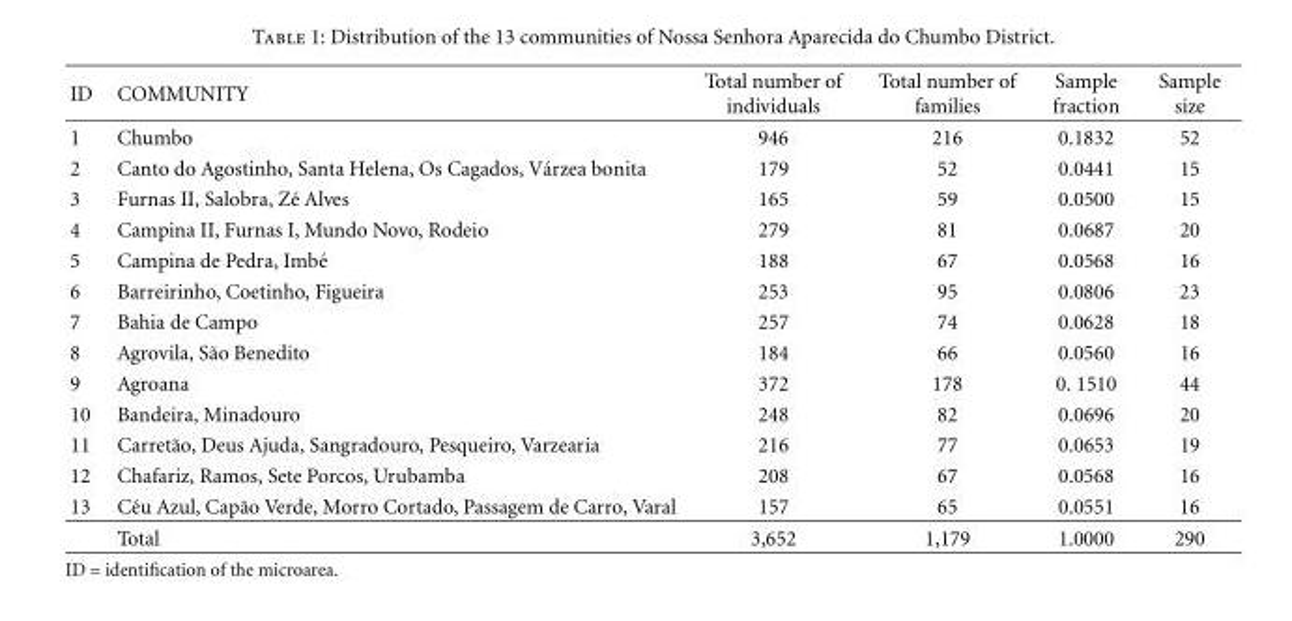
<table><thead><tr><td>ID</td><td>COMMUNITY</td><td>Total number of individuals</td><td>Total number of families</td><td>Sample fraction</td><td>Sample size</td></tr></thead><tbody><tr><td>1</td><td>Chumbo</td><td>946</td><td>216</td><td>0.1832</td><td>52</td></tr><tr><td>2</td><td>Canto do Agostinho, Santa Helena, Os Cagados, V´arzea bonita</td><td>179</td><td>52</td><td>0.0441</td><td>15</td></tr><tr><td>3</td><td>Furnas II, Salobra, Z´e Alves</td><td>165</td><td>59</td><td>0.0500</td><td>15</td></tr><tr><td>4</td><td>Campina II, Furnas I, Mundo Novo, Rodeio</td><td>279</td><td>81</td><td>0.0687</td><td>20</td></tr><tr><td>5</td><td>Campina de Pedra, Imb´e</td><td>188</td><td>67</td><td>0.0568</td><td>16</td></tr><tr><td>6</td><td>Barreirinho, Coetinho, Figueira</td><td>253</td><td>95</td><td>0.0806</td><td>23</td></tr><tr><td>7</td><td>Bahia de Campo</td><td>257</td><td>74</td><td>0.0628</td><td>18</td></tr><tr><td>8</td><td>Agrovila, S˜ao Benedito</td><td>184</td><td>66</td><td>0.0560</td><td>16</td></tr><tr><td>9</td><td>Agroana</td><td>372</td><td>178</td><td>0. 1510</td><td>44</td></tr><tr><td>10</td><td>Bandeira, Minadouro</td><td>248</td><td>82</td><td>0.0696</td><td>20</td></tr><tr><td>11</td><td>Carret˜ao, Deus Ajuda, Sangradouro, Pesqueiro, Varzearia</td><td>216</td><td>77</td><td>0.0653</td><td>19</td></tr><tr><td>12</td><td>Chafariz, Ramos, Sete Porcos, Urubamba</td><td>208</td><td>67</td><td>0.0568</td><td>16</td></tr><tr><td rowspan="2">13</td><td>C´eu Azul, Cap˜ao Verde, Morro Cortado, Passagem de Carro, Varal</td><td>157</td><td>65</td><td>0.0551</td><td>16</td></tr><tr><td>Total</td><td>3,652</td><td>1,179</td><td>1.0000</td><td>290</td></tr></tbody></table>